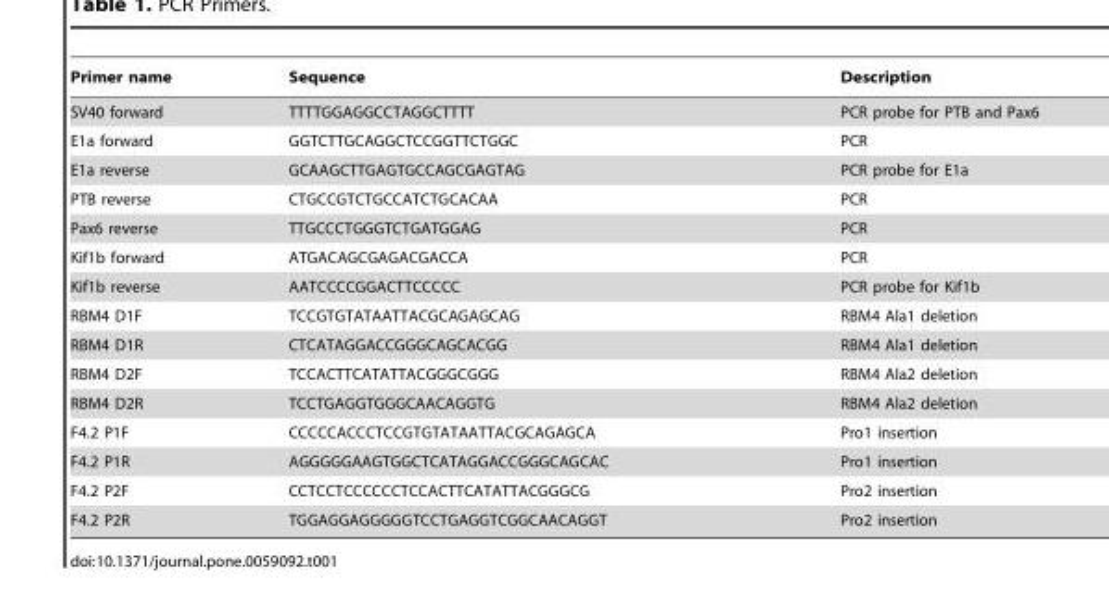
<table><thead><tr><td>Primer name</td><td>Sequence</td><td>Description</td></tr></thead><tbody><tr><td>SV40 forward</td><td>TTTTGGAGGCCTAGGCTTTT</td><td>PCR probe for PTB and Pax6</td></tr><tr><td>E1a forward</td><td>GGTCTTGCAGGCTCCGGTTCTGGC</td><td>PCR</td></tr><tr><td>E1a reverse</td><td>GCAAGCTTGAGTGCCAGCGAGTAG</td><td>PCR probe for E1a</td></tr><tr><td>PTB reverse</td><td>CTGCCGTCTGCCATCTGCACAA</td><td>PCR</td></tr><tr><td>Pax6 reverse</td><td>TTGCCCTGGGTCTGATGGAG</td><td>PCR</td></tr><tr><td>Kif1b forward</td><td>ATGACAGCGAGACGACCA</td><td>PCR</td></tr><tr><td>Kif1b reverse</td><td>AATCCCCGGACTTCCCCC</td><td>PCR probe for Kif1b</td></tr><tr><td>RBM4 D1F</td><td>TCCGTGTATAATTACGCAGAGCAG</td><td>RBM4 Ala1 deletion</td></tr><tr><td>RBM4 D1R</td><td>CTCATAGGACCGGGCAGCACGG</td><td>RBM4 Ala1 deletion</td></tr><tr><td>RBM4 D2F</td><td>TCCACTTCATATTACGGGCGGG</td><td>RBM4 Ala2 deletion</td></tr><tr><td>RBM4 D2R</td><td>TCCTGAGGTGGGCAACAGGTG</td><td>RBM4 Ala2 deletion</td></tr><tr><td>F4.2 P1F</td><td>CCCCCACCCTCCGTGTATAATTACGCAGAGCA</td><td>Pro1 insertion</td></tr><tr><td>F4.2 P1R</td><td>AGGGGGAAGTGGCTCATAGGACCGGGCAGCAC</td><td>Pro1 insertion</td></tr><tr><td>F4.2 P2F</td><td>CCTCCTCCCCCCTCCACTTCATATTACGGGCG</td><td>Pro2 insertion</td></tr><tr><td>F4.2 P2R</td><td>TGGAGGAGGGGGTCCTGAGGTCGGCAACAGGT</td><td>Pro2 insertion</td></tr></tbody></table>